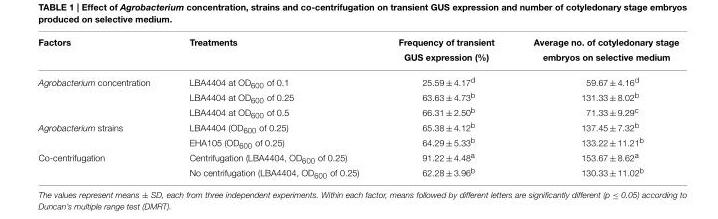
<table><thead><tr><td>Factors</td><td>Treatments</td><td>Frequency of transient GUS expression (%)</td><td>Average no. of cotyledonary stage embryos on selective medium</td></tr></thead><tbody><tr><td rowspan="3">Agrobacterium concentration</td><td>LBA4404 at OD<sub>600</sub> of 0.1</td><td>25.59 ± 4.17<sup>d</sup></td><td>59.67 ± 4.16<sup>d</sup></td></tr><tr><td>LBA4404 at OD<sub>600</sub> of 0.25</td><td>63.63 ± 4.73<sup>b</sup></td><td>131.33 ± 8.02<sup>b</sup></td></tr><tr><td>LBA4404 at OD<sub>600</sub> of 0.5</td><td>66.31 ± 2.50<sup>b</sup></td><td>71.33 ± 9.29<sup>c</sup></td></tr><tr><td rowspan="2">Agrobacterium strains</td><td>LBA4404 (OD<sub>600</sub> of 0.25)</td><td>65.38 ± 4.12<sup>b</sup></td><td>137.45 ± 7.32<sup>b</sup></td></tr><tr><td>EHA105 (OD<sub>600</sub> of 0.25)</td><td>64.29 ± 5.33<sup>b</sup></td><td>133.22 ± 11.21<sup>b</sup></td></tr><tr><td rowspan="2">Co-centrifugation</td><td>Centrifugation (LBA4404, OD<sub>600</sub> of 0.25)</td><td>91.22 ± 4.48<sup>a</sup></td><td>153.67 ± 8.62<sup>a</sup></td></tr><tr><td>No centrifugation (LBA4404, OD<sub>600</sub> of 0.25)</td><td>62.28 ± 3.96<sup>b</sup></td><td>130.33 ± 11.02<sup>b</sup></td></tr></tbody></table>